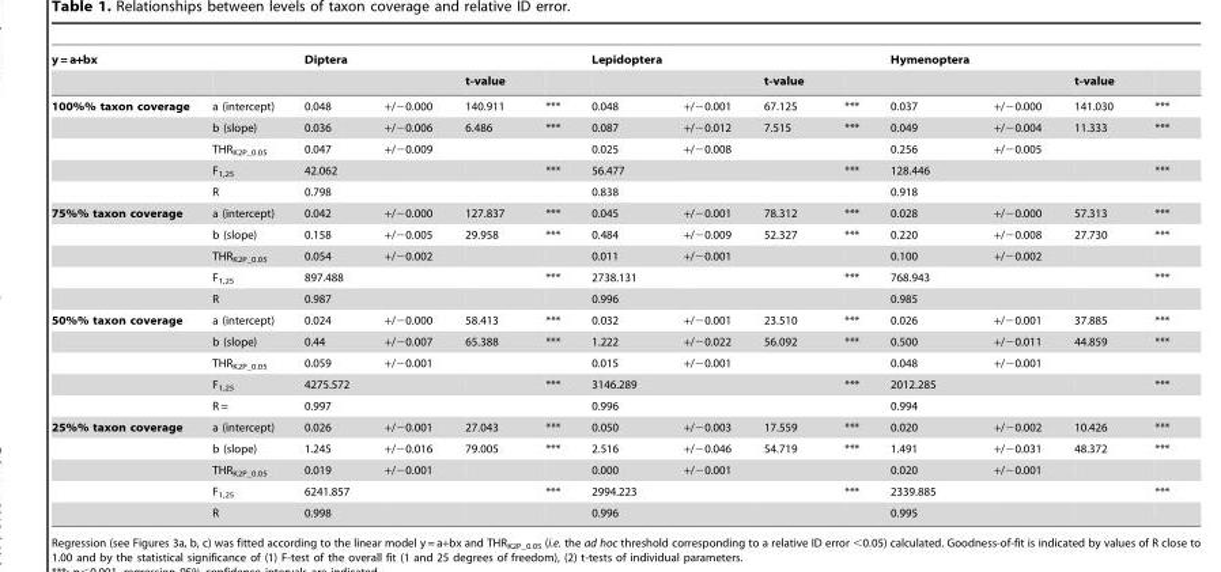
<table><thead><tr><td rowspan="2">y = a+bx</td><td rowspan="2"></td><td rowspan="2">Diptera</td><td rowspan="2"></td><td rowspan="2">t-value</td><td rowspan="2"></td><td rowspan="2">Lepidoptera</td><td rowspan="2"></td><td rowspan="2">t-value</td><td rowspan="2"></td><td rowspan="2">Hymenoptera</td><td rowspan="2"></td><td rowspan="2">t-value</td><td rowspan="2"></td></tr><tr></tr></thead><tbody><tr><td rowspan="5">100%% taxon coverage</td><td>a (intercept)</td><td>0.048</td><td>+/−0.000</td><td>140.911</td><td>***</td><td>0.048</td><td>+/−0.001</td><td>67.125</td><td>***</td><td>0.037</td><td>+/−0.000</td><td>141.030</td><td>***</td></tr><tr><td>b (slope)</td><td>0.036</td><td>+/−0.006</td><td>6.486</td><td>***</td><td>0.087</td><td>+/−0.012</td><td>7.515</td><td>***</td><td>0.049</td><td>+/−0.004</td><td>11.333</td><td>***</td></tr><tr><td>THR<sub>K2P_0.05</sub></td><td>0.047</td><td>+/−0.009</td><td></td><td></td><td>0.025</td><td>+/−0.008</td><td></td><td></td><td>0.256</td><td>+/−0.005</td><td></td><td></td></tr><tr><td>F<sub>1,25</sub></td><td>42.062</td><td></td><td></td><td>***</td><td>56.477</td><td></td><td></td><td>***</td><td>128.446</td><td></td><td></td><td>***</td></tr><tr><td>R</td><td>0.798</td><td></td><td></td><td></td><td>0.838</td><td></td><td></td><td></td><td>0.918</td><td></td><td></td><td></td></tr><tr><td rowspan="5">75%% taxon coverage</td><td>a (intercept)</td><td>0.042</td><td>+/−0.000</td><td>127.837</td><td>***</td><td>0.045</td><td>+/−0.001</td><td>78.312</td><td>***</td><td>0.028</td><td>+/−0.000</td><td>57.313</td><td>***</td></tr><tr><td>b (slope)</td><td>0.158</td><td>+/−0.005</td><td>29.958</td><td>***</td><td>0.484</td><td>+/−0.009</td><td>52.327</td><td>***</td><td>0.220</td><td>+/−0.008</td><td>27.730</td><td>***</td></tr><tr><td>THR<sub>K2P_0.05</sub></td><td>0.054</td><td>+/−0.002</td><td></td><td></td><td>0.011</td><td>+/−0.001</td><td></td><td></td><td>0.100</td><td>+/−0.002</td><td></td><td></td></tr><tr><td>F<sub>1,25</sub></td><td>897.488</td><td></td><td></td><td>***</td><td>2738.131</td><td></td><td></td><td>***</td><td>768.943</td><td></td><td></td><td>***</td></tr><tr><td>R</td><td>0.987</td><td></td><td></td><td></td><td>0.996</td><td></td><td></td><td></td><td>0.985</td><td></td><td></td><td></td></tr><tr><td rowspan="5">50%% taxon coverage</td><td>a (intercept)</td><td>0.024</td><td>+/−0.000</td><td>58.413</td><td>***</td><td>0.032</td><td>+/−0.001</td><td>23.510</td><td>***</td><td>0.026</td><td>+/−0.001</td><td>37.885</td><td>***</td></tr><tr><td>b (slope)</td><td>0.44</td><td>+/−0.007</td><td>65.388</td><td>***</td><td>1.222</td><td>+/−0.022</td><td>56.092</td><td>***</td><td>0.500</td><td>+/−0.011</td><td>44.859</td><td>***</td></tr><tr><td>THR<sub>K2P_0.05</sub></td><td>0.059</td><td>+/−0.001</td><td></td><td></td><td>0.015</td><td>+/−0.001</td><td></td><td></td><td>0.048</td><td>+/−0.001</td><td></td><td></td></tr><tr><td>F<sub>1,25</sub></td><td>4275.572</td><td></td><td></td><td>***</td><td>3146.289</td><td></td><td></td><td>***</td><td>2012.285</td><td></td><td></td><td>***</td></tr><tr><td>R =</td><td>0.997</td><td></td><td></td><td></td><td>0.996</td><td></td><td></td><td></td><td>0.994</td><td></td><td></td><td></td></tr><tr><td rowspan="5">25%% taxon coverage</td><td>a (intercept)</td><td>0.026</td><td>+/−0.001</td><td>27.043</td><td>***</td><td>0.050</td><td>+/−0.003</td><td>17.559</td><td>***</td><td>0.020</td><td>+/−0.002</td><td>10.426</td><td>***</td></tr><tr><td>b (slope)</td><td>1.245</td><td>+/−0.016</td><td>79.005</td><td>***</td><td>2.516</td><td>+/−0.046</td><td>54.719</td><td>***</td><td>1.491</td><td>+/−0.031</td><td>48.372</td><td>***</td></tr><tr><td>THR<sub>K2P_0.05</sub></td><td>0.019</td><td>+/−0.001</td><td></td><td></td><td>0.000</td><td>+/−0.001</td><td></td><td></td><td>0.020</td><td>+/−0.001</td><td></td><td></td></tr><tr><td>F<sub>1,25</sub></td><td>6241.857</td><td></td><td></td><td>***</td><td>2994.223</td><td></td><td></td><td>***</td><td>2339.885</td><td></td><td></td><td>***</td></tr><tr><td>R</td><td>0.998</td><td></td><td></td><td></td><td>0.996</td><td></td><td></td><td></td><td>0.995</td><td></td><td></td><td></td></tr></tbody></table>